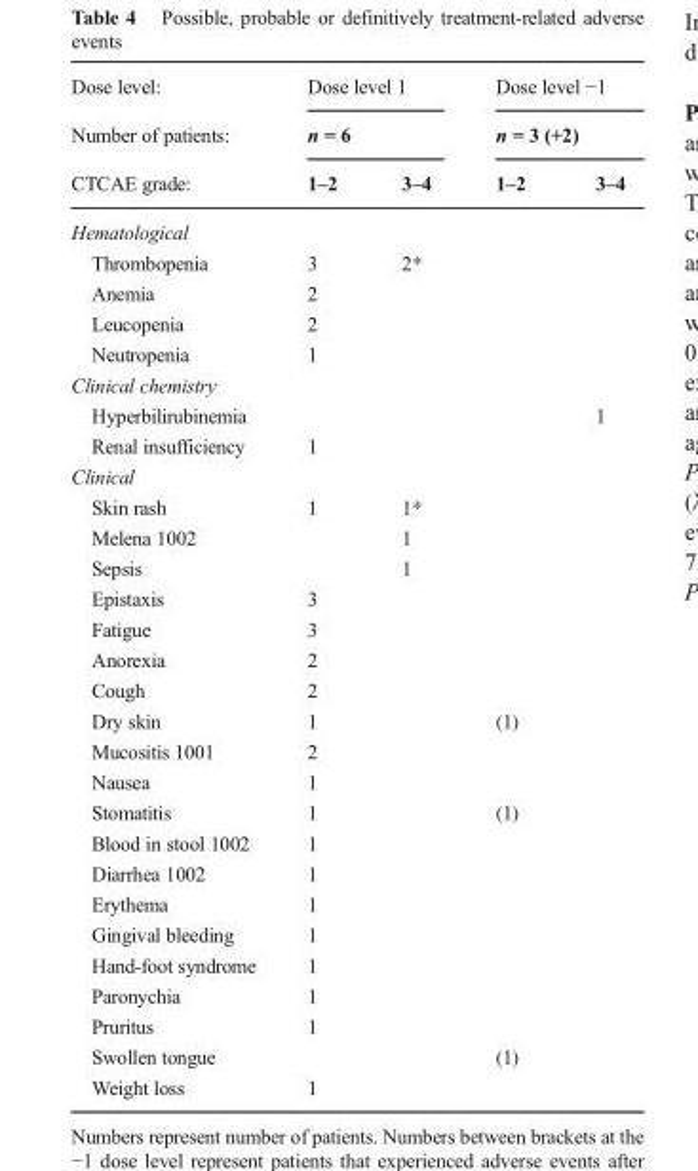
<table><thead><tr><td rowspan="3">Dose level: Number of patients: CTCAE grade:</td><td rowspan="2" colspan="2">Dose level 1 n = 6</td><td rowspan="2" colspan="2">Dose level −1 n = 3 (+2)</td></tr><tr></tr><tr><td>1–2</td><td>3–4</td><td>1–2</td><td>3–4</td></tr></thead><tbody><tr><td colspan="5">Hematological</td></tr><tr><td>Thrombopenia</td><td>3</td><td>2*</td><td></td><td></td></tr><tr><td>Anemia</td><td>2</td><td></td><td></td><td></td></tr><tr><td>Leucopenia</td><td>2</td><td></td><td></td><td></td></tr><tr><td>Neutropenia</td><td>1</td><td></td><td></td><td></td></tr><tr><td colspan="5">Clinical chemistry</td></tr><tr><td>Hyperbilirubinemia</td><td></td><td></td><td></td><td>1</td></tr><tr><td>Renal insufficiency</td><td>1</td><td></td><td></td><td></td></tr><tr><td colspan="5">Clinical</td></tr><tr><td>Skin rash</td><td>1</td><td>1*</td><td></td><td></td></tr><tr><td>Melena 1002</td><td></td><td>1</td><td></td><td></td></tr><tr><td>Sepsis</td><td></td><td>1</td><td></td><td></td></tr><tr><td>Epistaxis</td><td>3</td><td></td><td></td><td></td></tr><tr><td>Fatigue</td><td>3</td><td></td><td></td><td></td></tr><tr><td>Anorexia</td><td>2</td><td></td><td></td><td></td></tr><tr><td>Cough</td><td>2</td><td></td><td></td><td></td></tr><tr><td>Dry skin</td><td>1</td><td></td><td>(1)</td><td></td></tr><tr><td>Mucositis 1001</td><td>2</td><td></td><td></td><td></td></tr><tr><td>Nausea</td><td>1</td><td></td><td></td><td></td></tr><tr><td>Stomatitis</td><td>1</td><td></td><td>(1)</td><td></td></tr><tr><td>Blood in stool 1002</td><td>1</td><td></td><td></td><td></td></tr><tr><td>Diarrhea 1002</td><td>1</td><td></td><td></td><td></td></tr><tr><td>Erythema</td><td>1</td><td></td><td></td><td></td></tr><tr><td>Gingival bleeding</td><td>1</td><td></td><td></td><td></td></tr><tr><td>Hand-foot syndrome</td><td>1</td><td></td><td></td><td></td></tr><tr><td>Paronychia</td><td>1</td><td></td><td></td><td></td></tr><tr><td>Pruritus</td><td>1</td><td></td><td></td><td></td></tr><tr><td>Swollen tongue</td><td></td><td></td><td>(1)</td><td></td></tr><tr><td>Weight loss</td><td>1</td><td></td><td></td><td></td></tr></tbody></table>